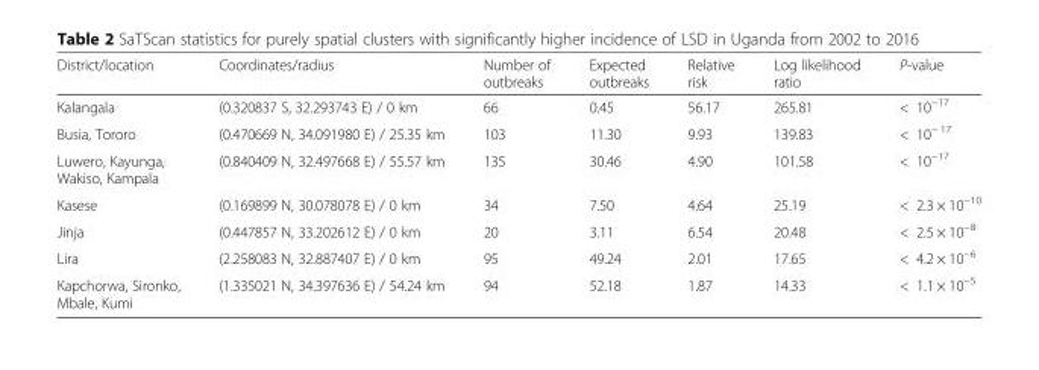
<table><thead><tr><td>District/location</td><td>Coordinates/radius</td><td>Number of outbreaks</td><td>Expected outbreaks</td><td>Relative risk</td><td>Log likelihood ratio</td><td>P-value</td></tr></thead><tbody><tr><td>Kalangala</td><td>(0.320837 S, 32.293743 E) / 0 km</td><td>66</td><td>0.45</td><td>56.17</td><td>265.81</td><td>&lt; 10<sup>−17</sup></td></tr><tr><td>Busia, Tororo</td><td>(0.470669 N, 34.091980 E) / 25.35 km</td><td>103</td><td>11.30</td><td>9.93</td><td>139.83</td><td>&lt; 10<sup>− 17</sup></td></tr><tr><td>Luwero, Kayunga, Wakiso, Kampala</td><td>(0.840409 N, 32.497668 E) / 55.57 km</td><td>135</td><td>30.46</td><td>4.90</td><td>101.58</td><td>&lt; 10<sup>−17</sup></td></tr><tr><td>Kasese</td><td>(0.169899 N, 30.078078 E) / 0 km</td><td>34</td><td>7.50</td><td>4.64</td><td>25.19</td><td>&lt; 2.3 × 10<sup>−10</sup></td></tr><tr><td>Jinja</td><td>(0.447857 N, 33.202612 E) / 0 km</td><td>20</td><td>3.11</td><td>6.54</td><td>20.48</td><td>&lt; 2.5 × 10<sup>−8</sup></td></tr><tr><td>Lira</td><td>(2.258083 N, 32.887407 E) / 0 km</td><td>95</td><td>49.24</td><td>2.01</td><td>17.65</td><td>&lt; 4.2 × 10<sup>−6</sup></td></tr><tr><td>Kapchorwa, Sironko, Mbale, Kumi</td><td>(1.335021 N, 34.397636 E) / 54.24 km</td><td>94</td><td>52.18</td><td>1.87</td><td>14.33</td><td>&lt; 1.1 × 10<sup>−5</sup></td></tr></tbody></table>